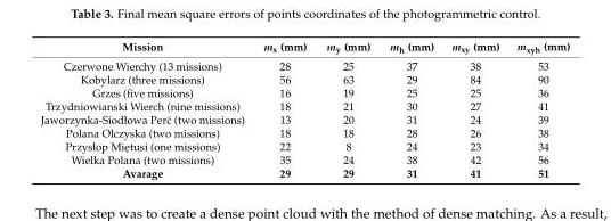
<table><thead><tr><td>Mission</td><td>m<sub>x</sub> (mm)</td><td>m<sub>y</sub> (mm)</td><td>m<sub>h</sub> (mm)</td><td>m<sub>xy</sub> (mm)</td><td>m<sub>xyh</sub> (mm)</td></tr></thead><tbody><tr><td>Czerwone Wierchy (13 missions)</td><td>28</td><td>25</td><td>37</td><td>38</td><td>53</td></tr><tr><td>Kobylarz (three missions)</td><td>56</td><td>63</td><td>29</td><td>84</td><td>90</td></tr><tr><td>Grzes (five missions)</td><td>16</td><td>19</td><td>25</td><td>25</td><td>36</td></tr><tr><td>Trzydniowianski Wierch (nine missions)</td><td>18</td><td>21</td><td>30</td><td>27</td><td>41</td></tr><tr><td>Jaworzynka-Siodłowa Per´c (two missions)</td><td>13</td><td>20</td><td>31</td><td>24</td><td>39</td></tr><tr><td>Polana Olczyska (two missions)</td><td>18</td><td>18</td><td>28</td><td>26</td><td>38</td></tr><tr><td>Przysłop Mi˛etusi (one missions)</td><td>22</td><td>8</td><td>24</td><td>23</td><td>34</td></tr><tr><td>Wielka Polana (two missions)</td><td>35</td><td>24</td><td>38</td><td>42</td><td>56</td></tr><tr><td>Avarage</td><td>29</td><td>29</td><td>31</td><td>41</td><td>51</td></tr></tbody></table>